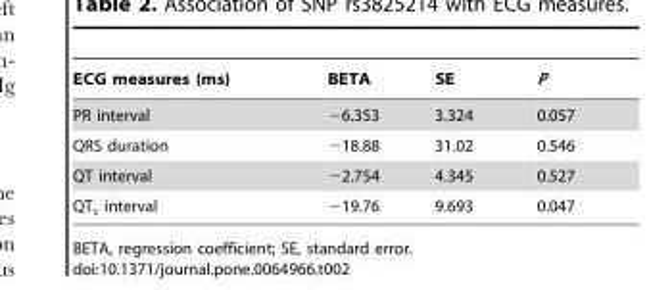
<table><thead><tr><td>ECG measures (ms)</td><td>BETA</td><td>SE</td><td>P</td></tr></thead><tbody><tr><td>PR interval</td><td>−6.353</td><td>3.324</td><td>0.057</td></tr><tr><td>QRS duration</td><td>−18.88</td><td>31.02</td><td>0.546</td></tr><tr><td>QT interval</td><td>−2.754</td><td>4.345</td><td>0.527</td></tr><tr><td>QT<sub>c</sub> interval</td><td>−19.76</td><td>9.693</td><td>0.047</td></tr></tbody></table>